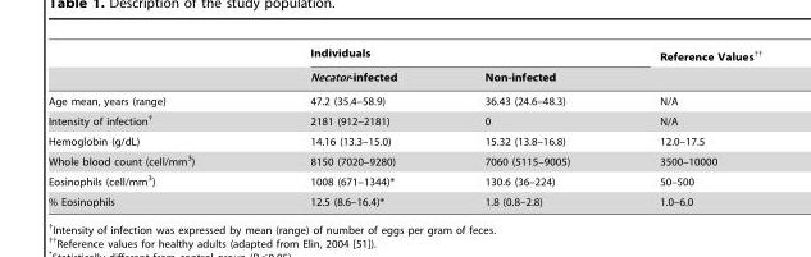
<table><thead><tr><td rowspan="2"></td><td colspan="2">Individuals</td><td rowspan="2">Reference Values††</td></tr><tr><td>Necator-infected</td><td>Non-infected</td></tr></thead><tbody><tr><td>Age mean, years (range)</td><td>47.2 (35.4–58.9)</td><td>36.43 (24.6–48.3)</td><td>N/A</td></tr><tr><td>Intensity of infection†</td><td>2181 (912–2181)</td><td>0</td><td>N/A</td></tr><tr><td>Hemoglobin (g/dL)</td><td>14.16 (13.3–15.0)</td><td>15.32 (13.8–16.8)</td><td>12.0–17.5</td></tr><tr><td>Whole blood count (cell/mm<sup>3</sup>)</td><td>8150 (7020–9280)</td><td>7060 (5115–9005)</td><td>3500–10000</td></tr><tr><td>Eosinophils (cell/mm<sup>3</sup>)</td><td>1008 (671–1344)*</td><td>130.6 (36–224)</td><td>50–500</td></tr><tr><td>% Eosinophils</td><td>12.5 (8.6–16.4)*</td><td>1.8 (0.8–2.8)</td><td>1.0–6.0</td></tr></tbody></table>